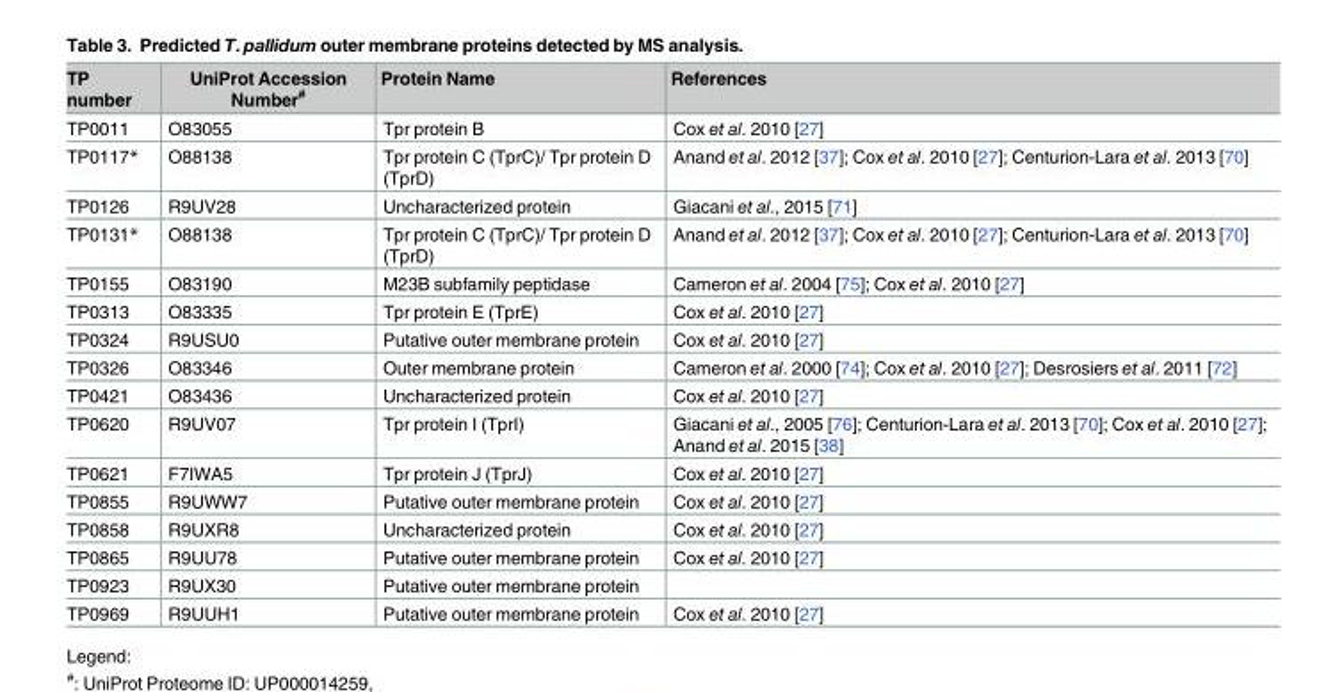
<table><thead><tr><td>TP number</td><td>UniProt Accession Number<sup>#</sup></td><td>Protein Name</td><td>References</td></tr></thead><tbody><tr><td>TP0011</td><td>O83055</td><td>Tpr protein B</td><td>Cox et al. 2010 [27]</td></tr><tr><td>TP0117*</td><td>O88138</td><td>Tpr protein C (TprC)/ Tpr protein D (TprD)</td><td>Anand et al. 2012 [37]; Cox et al. 2010 [27]; Centurion-Lara et al. 2013 [70]</td></tr><tr><td>TP0126</td><td>R9UV28</td><td>Uncharacterized protein</td><td>Giacani et al., 2015 [71]</td></tr><tr><td>TP0131*</td><td>O88138</td><td>Tpr protein C (TprC)/ Tpr protein D (TprD)</td><td>Anand et al. 2012 [37]; Cox et al. 2010 [27]; Centurion-Lara et al. 2013 [70]</td></tr><tr><td>TP0155</td><td>O83190</td><td>M23B subfamily peptidase</td><td>Cameron et al. 2004 [75]; Cox et al. 2010 [27]</td></tr><tr><td>TP0313</td><td>O83335</td><td>Tpr protein E (TprE)</td><td>Cox et al. 2010 [27]</td></tr><tr><td>TP0324</td><td>R9USU0</td><td>Putative outer membrane protein</td><td>Cox et al. 2010 [27]</td></tr><tr><td>TP0326</td><td>O83346</td><td>Outer membrane protein</td><td>Cameron et al. 2000 [74]; Cox et al. 2010 [27]; Desrosiers et al. 2011 [72]</td></tr><tr><td>TP0421</td><td>O83436</td><td>Uncharacterized protein</td><td>Cox et al. 2010 [27]</td></tr><tr><td>TP0620</td><td>R9UV07</td><td>Tpr protein I (TprI)</td><td>Giacani et al., 2005 [76]; Centurion-Lara et al. 2013 [70]; Cox et al. 2010 [27]; Anand et al. 2015 [38]</td></tr><tr><td>TP0621</td><td>F7IWA5</td><td>Tpr protein J (TprJ)</td><td>Cox et al. 2010 [27]</td></tr><tr><td>TP0855</td><td>R9UWW7</td><td>Putative outer membrane protein</td><td>Cox et al. 2010 [27]</td></tr><tr><td>TP0858</td><td>R9UXR8</td><td>Uncharacterized protein</td><td>Cox et al. 2010 [27]</td></tr><tr><td>TP0865</td><td>R9UU78</td><td>Putative outer membrane protein</td><td>Cox et al. 2010 [27]</td></tr><tr><td>TP0923</td><td>R9UX30</td><td>Putative outer membrane protein</td><td></td></tr><tr><td>TP0969</td><td>R9UUH1</td><td>Putative outer membrane protein</td><td>Cox et al. 2010 [27]</td></tr></tbody></table>